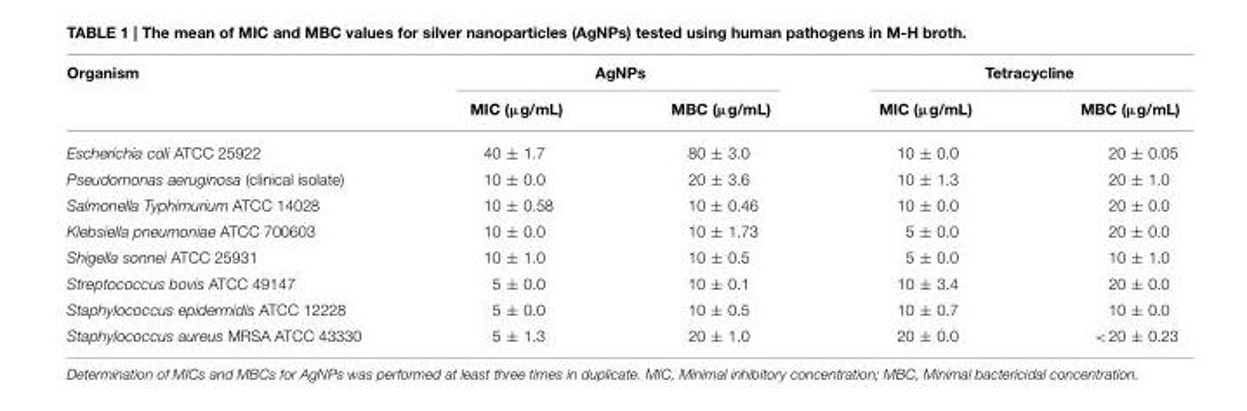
<table><thead><tr><td rowspan="2">Organism</td><td colspan="2">AgNPs</td><td colspan="2">Tetracycline</td></tr><tr><td>MIC (µg/mL)</td><td>MBC (µg/mL)</td><td>MIC (µg/mL)</td><td>MBC (µg/mL)</td></tr></thead><tbody><tr><td>Escherichia coli ATCC 25922</td><td>40 ± 1.7</td><td>80 ± 3.0</td><td>10 ± 0.0</td><td>20 ± 0.05</td></tr><tr><td>Pseudomonas aeruginosa (clinical isolate)</td><td>10 ± 0.0</td><td>20 ± 3.6</td><td>10 ± 1.3</td><td>20 ± 1.0</td></tr><tr><td>Salmonella Typhimurium ATCC 14028</td><td>10 ± 0.58</td><td>10 ± 0.46</td><td>10 ± 0.0</td><td>20 ± 0.0</td></tr><tr><td>Klebsiella pneumoniae ATCC 700603</td><td>10 ± 0.0</td><td>10 ± 1.73</td><td>5 ± 0.0</td><td>20 ± 0.0</td></tr><tr><td>Shigella sonnei ATCC 25931</td><td>10 ± 1.0</td><td>10 ± 0.5</td><td>5 ± 0.0</td><td>10 ± 1.0</td></tr><tr><td>Streptococcus bovis ATCC 49147</td><td>5 ± 0.0</td><td>10 ± 0.1</td><td>10 ± 3.4</td><td>20 ± 0.0</td></tr><tr><td>Staphylococcus epidermidis ATCC 12228</td><td>5 ± 0.0</td><td>10 ± 0.5</td><td>10 ± 0.7</td><td>10 ± 0.0</td></tr><tr><td>Staphylococcus aureus MRSA ATCC 43330</td><td>5 ± 1.3</td><td>20 ± 1.0</td><td>20 ± 0.0</td><td>&lt;20 ± 0.23</td></tr></tbody></table>